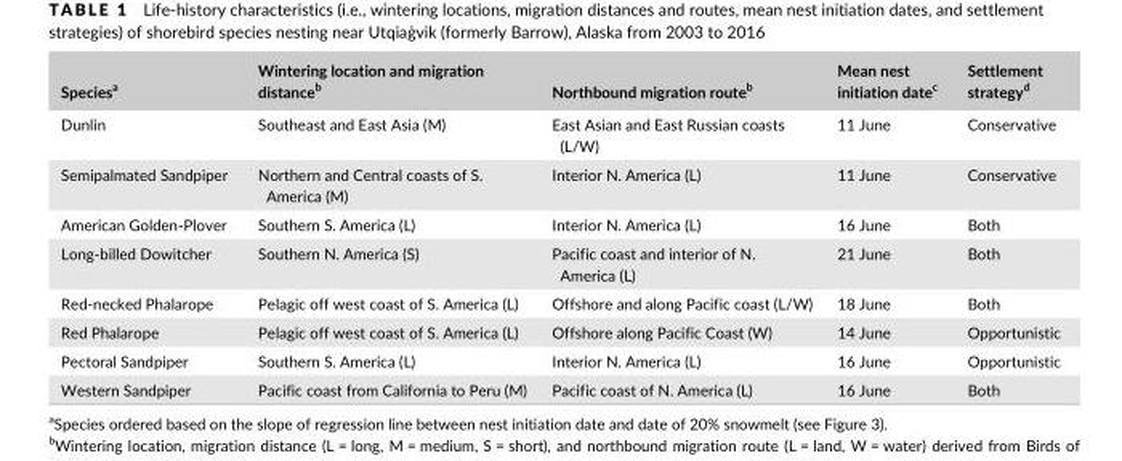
<table><thead><tr><td>Species<sup>a</sup></td><td>Wintering location and migration distance<sup>b</sup></td><td>Northbound migration route<sup>b</sup></td><td>Mean nest initiation date<sup>c</sup></td><td>Settlement strategy<sup>d</sup></td></tr></thead><tbody><tr><td>Dunlin</td><td>Southeast and East Asia (M)</td><td>East Asian and East Russian coasts (L/W)</td><td>11 June</td><td>Conservative</td></tr><tr><td>Semipalmated Sandpiper</td><td>Northern and Central coasts of S. America (M)</td><td>Interior N. America (L)</td><td>11 June</td><td>Conservative</td></tr><tr><td>American Golden- Plover</td><td>Southern S. America (L)</td><td>Interior N. America (L)</td><td>16 June</td><td>Both</td></tr><tr><td>Long- billed Dowitcher</td><td>Southern N. America (S)</td><td>Pacific coast and interior of N. America (L)</td><td>21 June</td><td>Both</td></tr><tr><td>Red- necked Phalarope</td><td>Pelagic off west coast of S. America (L)</td><td>Offshore and along Pacific coast (L/W)</td><td>18 June</td><td>Both</td></tr><tr><td>Red Phalarope</td><td>Pelagic off west coast of S. America (L)</td><td>Offshore along Pacific Coast (W)</td><td>14 June</td><td>Opportunistic</td></tr><tr><td>Pectoral Sandpiper</td><td>Southern S. America (L)</td><td>Interior N. America (L)</td><td>16 June</td><td>Opportunistic</td></tr><tr><td>Western Sandpiper</td><td>Pacific coast from California to Peru (M)</td><td>Pacific coast of N. America (L)</td><td>16 June</td><td>Both</td></tr></tbody></table>